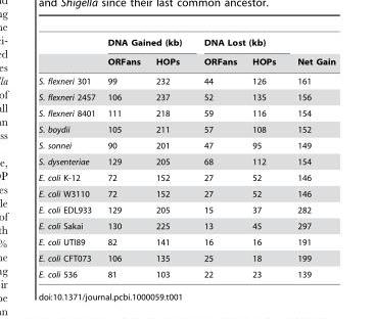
<table><thead><tr><td rowspan="2"></td><td colspan="2">DNA Gained (kb)</td><td colspan="2">DNA Lost (kb)</td><td rowspan="2">Net Gain</td></tr><tr><td>ORFans</td><td>HOPs</td><td>ORFans</td><td>HOPs</td></tr></thead><tbody><tr><td>S. flexneri 301</td><td>99</td><td>232</td><td>44</td><td>126</td><td>161</td></tr><tr><td>S. flexneri 2457</td><td>106</td><td>237</td><td>52</td><td>135</td><td>156</td></tr><tr><td>S. flexneri 8401</td><td>111</td><td>218</td><td>59</td><td>116</td><td>154</td></tr><tr><td>S. boydii</td><td>105</td><td>211</td><td>57</td><td>108</td><td>152</td></tr><tr><td>S. sonnei</td><td>90</td><td>201</td><td>47</td><td>95</td><td>149</td></tr><tr><td>S. dysenteriae</td><td>129</td><td>205</td><td>68</td><td>112</td><td>154</td></tr><tr><td>E. coli K-12</td><td>72</td><td>152</td><td>27</td><td>52</td><td>146</td></tr><tr><td>E. coli W3110</td><td>72</td><td>152</td><td>27</td><td>52</td><td>146</td></tr><tr><td>E. coli EDL933</td><td>129</td><td>205</td><td>15</td><td>37</td><td>282</td></tr><tr><td>E. coli Sakai</td><td>130</td><td>225</td><td>13</td><td>45</td><td>297</td></tr><tr><td>E. coli UTI89</td><td>82</td><td>141</td><td>16</td><td>16</td><td>191</td></tr><tr><td>E. coli CFT073</td><td>106</td><td>135</td><td>25</td><td>18</td><td>199</td></tr><tr><td>E. coli 536</td><td>81</td><td>103</td><td>22</td><td>23</td><td>139</td></tr></tbody></table>